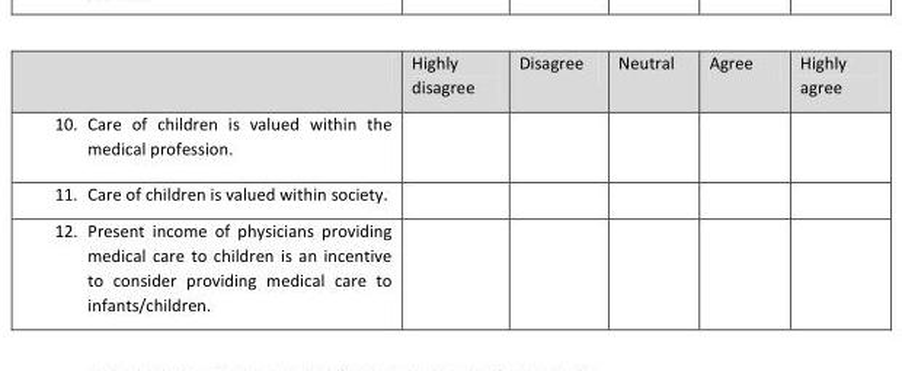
<table><thead><tr><td></td><td>Highly disagree</td><td>Disagree</td><td>Neutral</td><td>Agree</td><td>Highly agree</td></tr></thead><tbody><tr><td colspan="6">10. Care of children is valued within the medical profession.</td></tr><tr><td colspan="6">11. Care of children is valued within society.</td></tr><tr><td>12. Present income of physicians providing medical care to children is an incentive to consider providing medical care to infants/children.</td><td></td><td></td><td></td><td></td><td></td></tr></tbody></table>